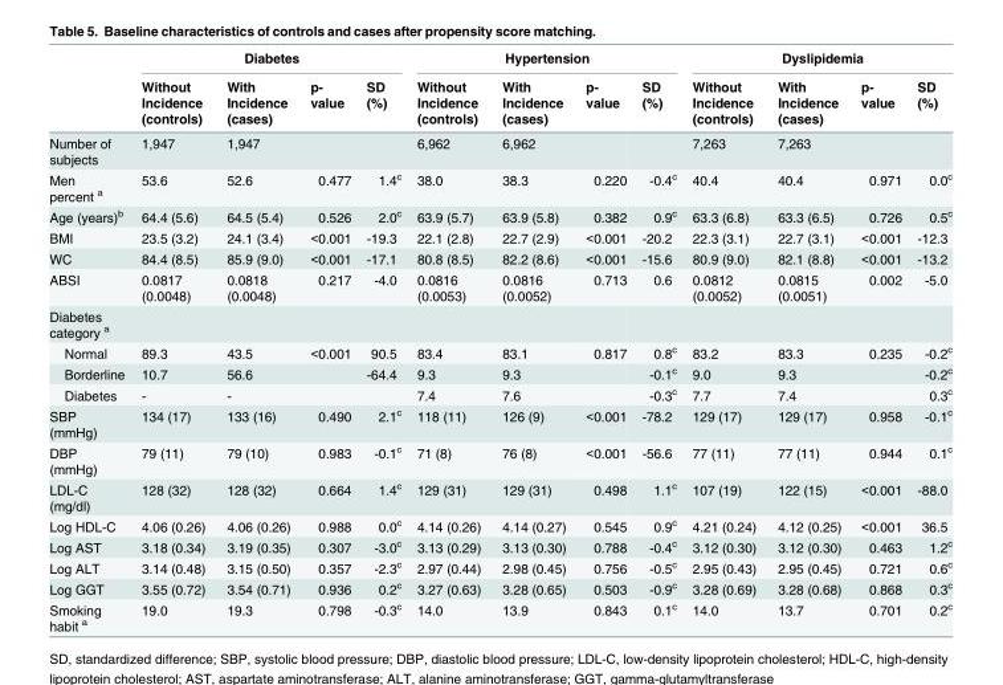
<table><thead><tr><td rowspan="2"></td><td colspan="4">Diabetes</td><td colspan="4">Hypertension</td><td colspan="4">Dyslipidemia</td></tr><tr><td>Without Incidence (controls)</td><td>With Incidence (cases)</td><td>p- value</td><td>SD (%)</td><td>Without Incidence (controls)</td><td>With Incidence (cases)</td><td>p- value</td><td>SD (%)</td><td>Without Incidence (controls)</td><td>With Incidence (cases)</td><td>p- value</td><td>SD (%)</td></tr></thead><tbody><tr><td>Number of subjects</td><td>1,947</td><td>1,947</td><td></td><td></td><td>6,962</td><td>6,962</td><td></td><td></td><td>7,263</td><td>7,263</td><td></td><td></td></tr><tr><td>Men percent <sup>a</sup></td><td>53.6</td><td>52.6</td><td>0.477</td><td>1.4<sup>c</sup></td><td>38.0</td><td>38.3</td><td>0.220</td><td>-0.4<sup>c</sup></td><td>40.4</td><td>40.4</td><td>0.971</td><td>0.0<sup>c</sup></td></tr><tr><td>Age (years)<sup>b</sup></td><td>64.4 (5.6)</td><td>64.5 (5.4)</td><td>0.526</td><td>2.0<sup>c</sup></td><td>63.9 (5.7)</td><td>63.9 (5.8)</td><td>0.382</td><td>0.9<sup>c</sup></td><td>63.3 (6.8)</td><td>63.3 (6.5)</td><td>0.726</td><td>0.5<sup>c</sup></td></tr><tr><td>BMI</td><td>23.5 (3.2)</td><td>24.1 (3.4)</td><td>&lt;0.001</td><td>-19.3</td><td>22.1 (2.8)</td><td>22.7 (2.9)</td><td>&lt;0.001</td><td>-20.2</td><td>22.3 (3.1)</td><td>22.7 (3.1)</td><td>&lt;0.001</td><td>-12.3</td></tr><tr><td>WC</td><td>84.4 (8.5)</td><td>85.9 (9.0)</td><td>&lt;0.001</td><td>-17.1</td><td>80.8 (8.5)</td><td>82.2 (8.6)</td><td>&lt;0.001</td><td>-15.6</td><td>80.9 (9.0)</td><td>82.1 (8.8)</td><td>&lt;0.001</td><td>-13.2</td></tr><tr><td>ABSI</td><td>0.0817 (0.0048)</td><td>0.0818 (0.0048)</td><td>0.217</td><td>-4.0</td><td>0.0816 (0.0053)</td><td>0.0816 (0.0052)</td><td>0.713</td><td>0.6</td><td>0.0812 (0.0052)</td><td>0.0815 (0.0051)</td><td>0.002</td><td>-5.0</td></tr><tr><td colspan="13">Diabetes category <sup>a</sup></td></tr><tr><td>Normal</td><td>89.3</td><td>43.5</td><td>&lt;0.001</td><td>90.5</td><td>83.4</td><td>83.1</td><td>0.817</td><td>0.8<sup>c</sup></td><td>83.2</td><td>83.3</td><td>0.235</td><td>-0.2<sup>c</sup></td></tr><tr><td>Borderline</td><td>10.7</td><td>56.6</td><td></td><td>-64.4</td><td>9.3</td><td>9.3</td><td></td><td>-0.1<sup>c</sup></td><td>9.0</td><td>9.3</td><td></td><td>-0.2<sup>c</sup></td></tr><tr><td>Diabetes</td><td>-</td><td>-</td><td></td><td></td><td>7.4</td><td>7.6</td><td></td><td>-0.3<sup>c</sup></td><td>7.7</td><td>7.4</td><td></td><td>0.3<sup>c</sup></td></tr><tr><td>SBP (mmHg)</td><td>134 (17)</td><td>133 (16)</td><td>0.490</td><td>2.1<sup>c</sup></td><td>118 (11)</td><td>126 (9)</td><td>&lt;0.001</td><td>-78.2</td><td>129 (17)</td><td>129 (17)</td><td>0.958</td><td>-0.1<sup>c</sup></td></tr><tr><td>DBP (mmHg)</td><td>79 (11)</td><td>79 (10)</td><td>0.983</td><td>-0.1<sup>c</sup></td><td>71 (8)</td><td>76 (8)</td><td>&lt;0.001</td><td>-56.6</td><td>77 (11)</td><td>77 (11)</td><td>0.944</td><td>0.1<sup>c</sup></td></tr><tr><td>LDL-C (mg/dl)</td><td>128 (32)</td><td>128 (32)</td><td>0.664</td><td>1.4<sup>c</sup></td><td>129 (31)</td><td>129 (31)</td><td>0.498</td><td>1.1<sup>c</sup></td><td>107 (19)</td><td>122 (15)</td><td>&lt;0.001</td><td>-88.0</td></tr><tr><td>Log HDL-C</td><td>4.06 (0.26)</td><td>4.06 (0.26)</td><td>0.988</td><td>0.0<sup>c</sup></td><td>4.14 (0.26)</td><td>4.14 (0.27)</td><td>0.545</td><td>0.9<sup>c</sup></td><td>4.21 (0.24)</td><td>4.12 (0.25)</td><td>&lt;0.001</td><td>36.5</td></tr><tr><td>Log AST</td><td>3.18 (0.34)</td><td>3.19 (0.35)</td><td>0.307</td><td>-3.0<sup>c</sup></td><td>3.13 (0.29)</td><td>3.13 (0.30)</td><td>0.788</td><td>-0.4<sup>c</sup></td><td>3.12 (0.30)</td><td>3.12 (0.30)</td><td>0.463</td><td>1.2<sup>c</sup></td></tr><tr><td>Log ALT</td><td>3.14 (0.48)</td><td>3.15 (0.50)</td><td>0.357</td><td>-2.3<sup>c</sup></td><td>2.97 (0.44)</td><td>2.98 (0.45)</td><td>0.756</td><td>-0.5<sup>c</sup></td><td>2.95 (0.43)</td><td>2.95 (0.45)</td><td>0.721</td><td>0.6<sup>c</sup></td></tr><tr><td>Log GGT</td><td>3.55 (0.72)</td><td>3.54 (0.71)</td><td>0.936</td><td>0.2<sup>c</sup></td><td>3.27 (0.63)</td><td>3.28 (0.65)</td><td>0.503</td><td>-0.9<sup>c</sup></td><td>3.28 (0.69)</td><td>3.28 (0.68)</td><td>0.868</td><td>0.3<sup>c</sup></td></tr><tr><td>Smoking habit <sup>a</sup></td><td>19.0</td><td>19.3</td><td>0.798</td><td>-0.3<sup>c</sup></td><td>14.0</td><td>13.9</td><td>0.843</td><td>0.1<sup>c</sup></td><td>14.0</td><td>13.7</td><td>0.701</td><td>0.2<sup>c</sup></td></tr></tbody></table>